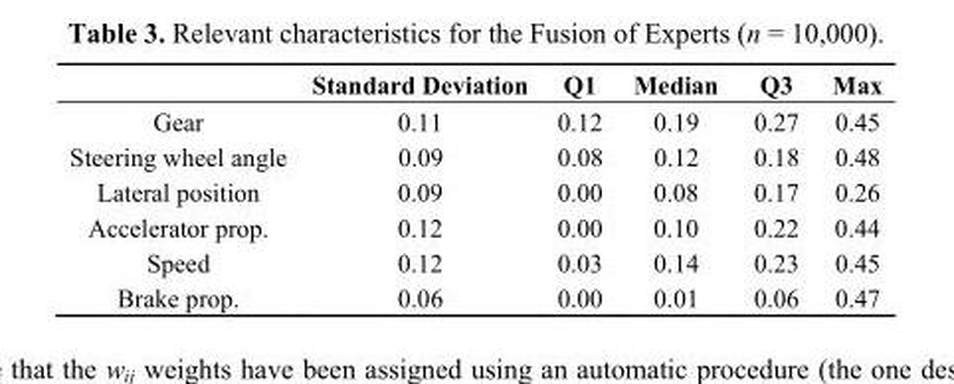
<table><thead><tr><td></td><td>Standard Deviation</td><td>Q1</td><td>Median</td><td>Q3</td><td>Max</td></tr></thead><tbody><tr><td>Gear</td><td>0.11</td><td>0.12</td><td>0.19</td><td>0.27</td><td>0.45</td></tr><tr><td>Steering wheel angle</td><td>0.09</td><td>0.08</td><td>0.12</td><td>0.18</td><td>0.48</td></tr><tr><td>Lateral position</td><td>0.09</td><td>0.00</td><td>0.08</td><td>0.17</td><td>0.26</td></tr><tr><td>Accelerator prop.</td><td>0.12</td><td>0.00</td><td>0.10</td><td>0.22</td><td>0.44</td></tr><tr><td>Speed</td><td>0.12</td><td>0.03</td><td>0.14</td><td>0.23</td><td>0.45</td></tr><tr><td>Brake prop.</td><td>0.06</td><td>0.00</td><td>0.01</td><td>0.06</td><td>0.47</td></tr></tbody></table>